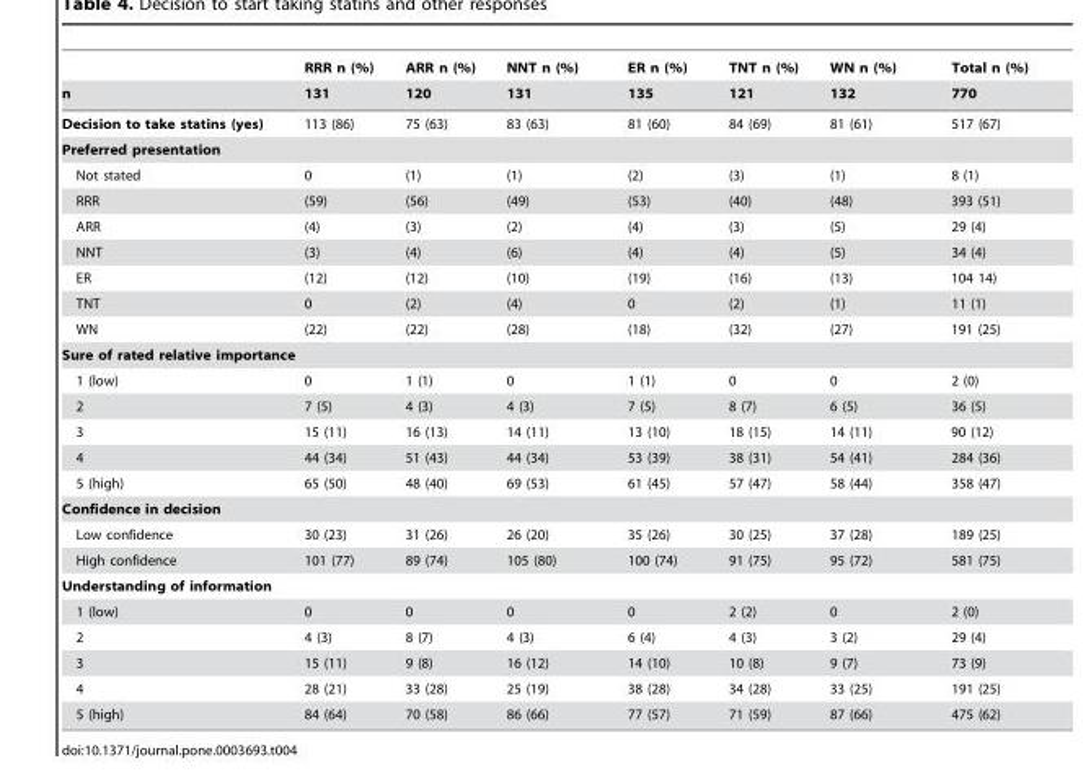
<table><thead><tr><td rowspan="2">n</td><td rowspan="2">RRR n (%) 131</td><td rowspan="2">ARR n (%) 120</td><td rowspan="2">NNT n (%) 131</td><td rowspan="2">ER n (%) 135</td><td rowspan="2">TNT n (%) 121</td><td rowspan="2">WN n (%) 132</td><td rowspan="2">Total n (%) 770</td></tr><tr></tr></thead><tbody><tr><td>Decision to take statins (yes)</td><td>113 (86)</td><td>75 (63)</td><td>83 (63)</td><td>81 (60)</td><td>84 (69)</td><td>81 (61)</td><td>517 (67)</td></tr><tr><td colspan="8">Preferred presentation</td></tr><tr><td>Not stated</td><td>0</td><td>(1)</td><td>(1)</td><td>(2)</td><td>(3)</td><td>(1)</td><td>8 (1)</td></tr><tr><td>RRR</td><td>(59)</td><td>(56)</td><td>(49)</td><td>(53)</td><td>(40)</td><td>(48)</td><td>393 (51)</td></tr><tr><td>ARR</td><td>(4)</td><td>(3)</td><td>(2)</td><td>(4)</td><td>(3)</td><td>(5)</td><td>29 (4)</td></tr><tr><td>NNT</td><td>(3)</td><td>(4)</td><td>(6)</td><td>(4)</td><td>(4)</td><td>(5)</td><td>34 (4)</td></tr><tr><td>ER</td><td>(12)</td><td>(12)</td><td>(10)</td><td>(19)</td><td>(16)</td><td>(13)</td><td>104 14)</td></tr><tr><td>TNT</td><td>0</td><td>(2)</td><td>(4)</td><td>0</td><td>(2)</td><td>(1)</td><td>11 (1)</td></tr><tr><td>WN</td><td>(22)</td><td>(22)</td><td>(28)</td><td>(18)</td><td>(32)</td><td>(27)</td><td>191 (25)</td></tr><tr><td colspan="8">Sure of rated relative importance</td></tr><tr><td>1 (low)</td><td>0</td><td>1 (1)</td><td>0</td><td>1 (1)</td><td>0</td><td>0</td><td>2 (0)</td></tr><tr><td>2</td><td>7 (5)</td><td>4 (3)</td><td>4 (3)</td><td>7 (5)</td><td>8 (7)</td><td>6 (5)</td><td>36 (5)</td></tr><tr><td>3</td><td>15 (11)</td><td>16 (13)</td><td>14 (11)</td><td>13 (10)</td><td>18 (15)</td><td>14 (11)</td><td>90 (12)</td></tr><tr><td>4</td><td>44 (34)</td><td>51 (43)</td><td>44 (34)</td><td>53 (39)</td><td>38 (31)</td><td>54 (41)</td><td>284 (36)</td></tr><tr><td>5 (high)</td><td>65 (50)</td><td>48 (40)</td><td>69 (53)</td><td>61 (45)</td><td>57 (47)</td><td>58 (44)</td><td>358 (47)</td></tr><tr><td colspan="8">Confidence in decision</td></tr><tr><td>Low confidence</td><td>30 (23)</td><td>31 (26)</td><td>26 (20)</td><td>35 (26)</td><td>30 (25)</td><td>37 (28)</td><td>189 (25)</td></tr><tr><td>High confidence</td><td>101 (77)</td><td>89 (74)</td><td>105 (80)</td><td>100 (74)</td><td>91 (75)</td><td>95 (72)</td><td>581 (75)</td></tr><tr><td colspan="8">Understanding of information</td></tr><tr><td>1 (low)</td><td>0</td><td>0</td><td>0</td><td>0</td><td>2 (2)</td><td>0</td><td>2 (0)</td></tr><tr><td>2</td><td>4 (3)</td><td>8 (7)</td><td>4 (3)</td><td>6 (4)</td><td>4 (3)</td><td>3 (2)</td><td>29 (4)</td></tr><tr><td>3</td><td>15 (11)</td><td>9 (8)</td><td>16 (12)</td><td>14 (10)</td><td>10 (8)</td><td>9 (7)</td><td>73 (9)</td></tr><tr><td>4</td><td>28 (21)</td><td>33 (28)</td><td>25 (19)</td><td>38 (28)</td><td>34 (28)</td><td>33 (25)</td><td>191 (25)</td></tr><tr><td>5 (high)</td><td>84 (64)</td><td>70 (58)</td><td>86 (66)</td><td>77 (57)</td><td>71 (59)</td><td>87 (66)</td><td>475 (62)</td></tr></tbody></table>